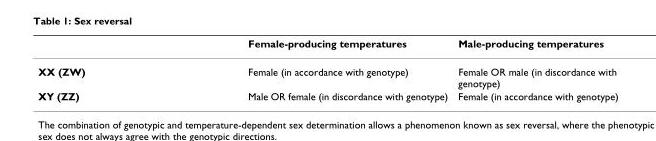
<table><thead><tr><td></td><td>Female-producing temperatures</td><td>Male-producing temperatures</td></tr></thead><tbody><tr><td>XX (ZW)</td><td>Female (in accordance with genotype)</td><td>Female OR male (in discordance with genotype)</td></tr><tr><td>XY (ZZ)</td><td>Male OR female (in discordance with genotype)</td><td>Female (in accordance with genotype)</td></tr></tbody></table>